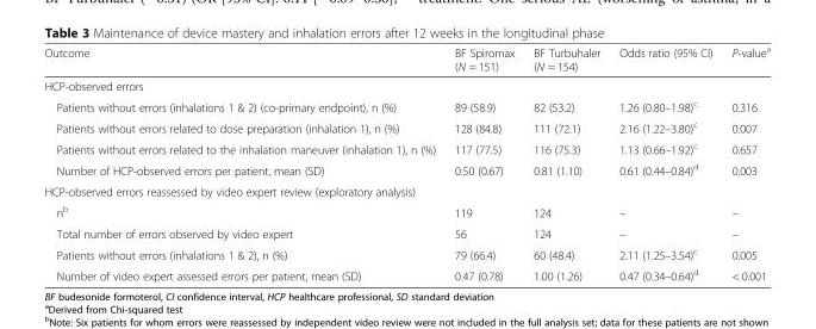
<table><thead><tr><td>Outcome</td><td>BF Spiromax (N = 151)</td><td>BF Turbuhaler (N = 154)</td><td>Odds ratio (95% CI)</td><td>P-value<sup>a</sup></td></tr></thead><tbody><tr><td colspan="5">HCP-observed errors</td></tr><tr><td>Patients without errors (inhalations 1 &amp; 2) (co-primary endpoint), n (%)</td><td>89 (58.9)</td><td>82 (53.2)</td><td>1.26 (0.80–1.98)<sup>c</sup></td><td>0.316</td></tr><tr><td>Patients without errors related to dose preparation (inhalation 1), n (%)</td><td>128 (84.8)</td><td>111 (72.1)</td><td>2.16 (1.22–3.80)<sup>c</sup></td><td>0.007</td></tr><tr><td>Patients without errors related to the inhalation maneuver (inhalation 1), n (%)</td><td>117 (77.5)</td><td>116 (75.3)</td><td>1.13 (0.66–1.92)<sup>c</sup></td><td>0.657</td></tr><tr><td>Number of HCP-observed errors per patient, mean (SD)</td><td>0.50 (0.67)</td><td>0.81 (1.10)</td><td>0.61 (0.44–0.84)<sup>d</sup></td><td>0.003</td></tr><tr><td colspan="5">HCP-observed errors reassessed by video expert review (exploratory analysis)</td></tr><tr><td>n<sup>b</sup></td><td>119</td><td>124</td><td>–</td><td>–</td></tr><tr><td>Total number of errors observed by video expert</td><td>56</td><td>124</td><td>–</td><td>–</td></tr><tr><td>Patients without errors (inhalations 1 &amp; 2), n (%)</td><td>79 (66.4)</td><td>60 (48.4)</td><td>2.11 (1.25–3.54)<sup>c</sup></td><td>0.005</td></tr><tr><td>Number of video expert assessed errors per patient, mean (SD)</td><td>0.47 (0.78)</td><td>1.00 (1.26)</td><td>0.47 (0.34–0.64)<sup>d</sup></td><td>&lt; 0.001</td></tr></tbody></table>